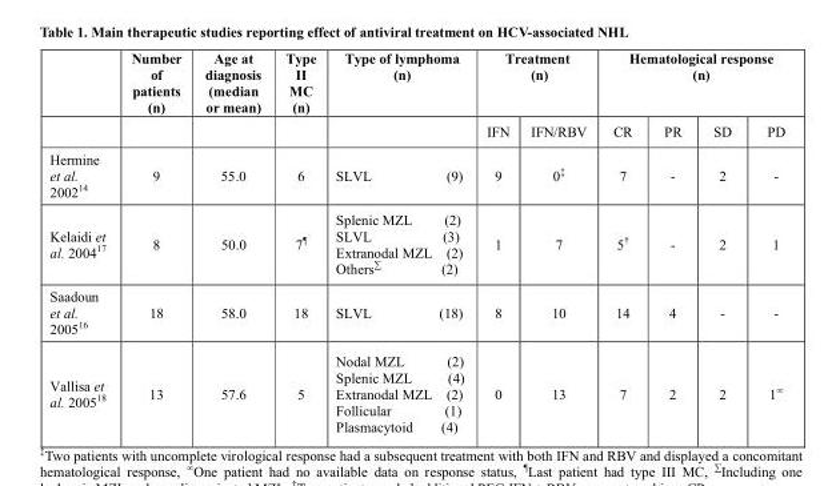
<table><thead><tr><td rowspan="2"></td><td rowspan="2">Number of patients (n)</td><td rowspan="2">Age at diagnosis (median or mean)</td><td rowspan="2">Type II MC (n)</td><td rowspan="2">Type of lymphoma (n)</td><td colspan="2">Treatment (n)</td><td colspan="4">Hematological response (n)</td></tr><tr><td>IFN</td><td>IFN/RBV</td><td>CR</td><td>PR</td><td>SD</td><td>PD</td></tr></thead><tbody><tr><td>Hermine et al. 2002<sup>14</sup></td><td>9</td><td>55.0</td><td>6</td><td>SLVL (9)</td><td>9</td><td>0‡</td><td>7</td><td>-</td><td>2</td><td>-</td></tr><tr><td>Kelaidi et al. 2004<sup>17</sup></td><td>8</td><td>50.0</td><td>7¶</td><td>Splenic MZL (2) SLVL (3) Extranodal MZL (2) Others∑ (2)</td><td>1</td><td>7</td><td>5†</td><td>-</td><td>2</td><td>1</td></tr><tr><td>Saadoun et al. 2005<sup>16</sup></td><td>18</td><td>58.0</td><td>18</td><td>SLVL (18)</td><td>8</td><td>10</td><td>14</td><td>4</td><td>-</td><td>-</td></tr><tr><td>Vallisa et al. 2005<sup>18</sup></td><td>13</td><td>57.6</td><td>5</td><td>Nodal MZL (2) Splenic MZL (4) Extranodal MZL (2) Follicular (1) Plasmacytoid (4)</td><td>0</td><td>13</td><td>7</td><td>2</td><td>2</td><td>1∞</td></tr></tbody></table>